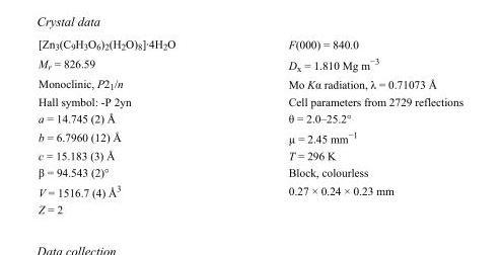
<table><tbody><tr><td>[Zn<sub>3</sub>(C<sub>9</sub>H<sub>3</sub>O<sub>6</sub>)<sub>2</sub>(H<sub>2</sub>O)<sub>8</sub>]·4H<sub>2</sub>O</td><td>F(000) = 840.0</td></tr><tr><td>M<sub>r</sub> = 826.59</td><td>D<sub>x</sub> = 1.810 Mg m<sup>−3</sup></td></tr><tr><td>Monoclinic, P2<sub>1</sub>/n</td><td>Mo Kα radiation, λ = 0.71073 Å</td></tr><tr><td>Hall symbol: -P 2yn</td><td>Cell parameters from 2729 reflections</td></tr><tr><td>a = 14.745 (2) Å</td><td>θ = 2.0–25.2°</td></tr><tr><td>b = 6.7960 (12) Å</td><td>µ = 2.45 mm<sup>−1</sup></td></tr><tr><td>c = 15.183 (3) Å</td><td>T = 296 K</td></tr><tr><td>β = 94.543 (2)°</td><td>Block, colourless</td></tr><tr><td>V = 1516.7 (4) Å<sup>3</sup></td><td>0.27 × 0.24 × 0.23 mm</td></tr><tr><td>Z = 2</td><td></td></tr></tbody></table>